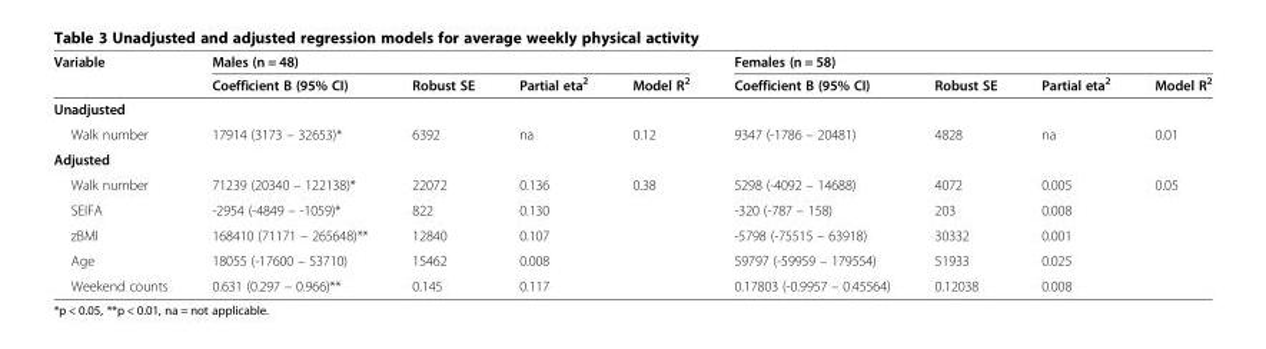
<table><thead><tr><td rowspan="2">Variable</td><td colspan="4">Males (n = 48)</td><td colspan="4">Females (n = 58)</td></tr><tr><td>Coefficient B (95% CI)</td><td>Robust SE</td><td>Partial eta<sup>2</sup></td><td>Model R<sup>2</sup></td><td>Coefficient B (95% CI)</td><td>Robust SE</td><td>Partial eta<sup>2</sup></td><td>Model R<sup>2</sup></td></tr></thead><tbody><tr><td colspan="9">Unadjusted</td></tr><tr><td>Walk number</td><td>17914 (3173 – 32653)*</td><td>6392</td><td>na</td><td>0.12</td><td>9347 (-1786 – 20481)</td><td>4828</td><td>na</td><td>0.01</td></tr><tr><td colspan="9">Adjusted</td></tr><tr><td>Walk number</td><td>71239 (20340 – 122138)*</td><td>22072</td><td>0.136</td><td>0.38</td><td>5298 (-4092 – 14688)</td><td>4072</td><td>0.005</td><td>0.05</td></tr><tr><td>SEIFA</td><td>-2954 (-4849 – -1059)*</td><td>822</td><td>0.130</td><td></td><td>-320 (-787 – 158)</td><td>203</td><td>0.008</td><td></td></tr><tr><td>zBMI</td><td>168410 (71171 – 265648)**</td><td>12840</td><td>0.107</td><td></td><td>-5798 (-75515 – 63918)</td><td>30332</td><td>0.001</td><td></td></tr><tr><td>Age</td><td>18055 (-17600 – 53710)</td><td>15462</td><td>0.008</td><td></td><td>59797 (-59959 – 179554)</td><td>51933</td><td>0.025</td><td></td></tr><tr><td>Weekend counts</td><td>0.631 (0.297 – 0.966)**</td><td>0.145</td><td>0.117</td><td></td><td>0.17803 (-0.9957 – 0.45564)</td><td>0.12038</td><td>0.008</td><td></td></tr></tbody></table>